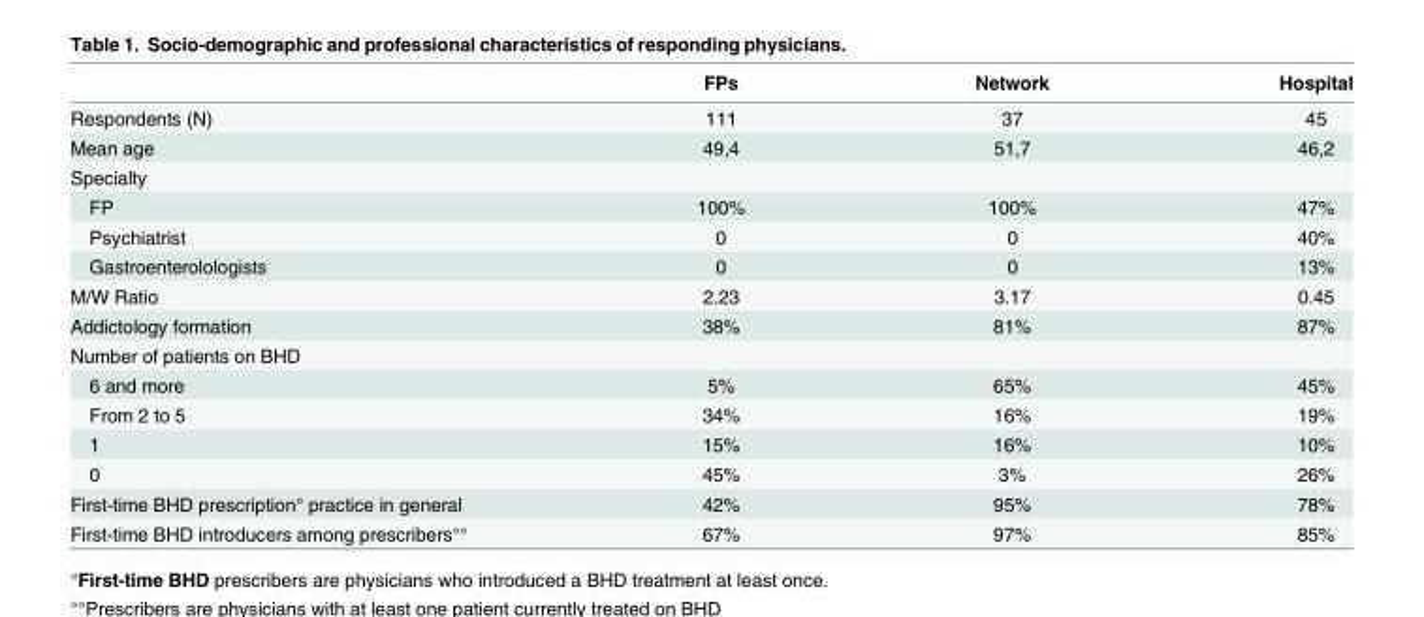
<table><thead><tr><td></td><td>FPs</td><td>Network</td><td>Hospital</td></tr></thead><tbody><tr><td>Respondents (N)</td><td>111</td><td>37</td><td>45</td></tr><tr><td>Mean age</td><td>49,4</td><td>51,7</td><td>46,2</td></tr><tr><td colspan="4">Specialty</td></tr><tr><td>FP</td><td>100%</td><td>100%</td><td>47%</td></tr><tr><td>Psychiatrist</td><td>0</td><td>0</td><td>40%</td></tr><tr><td>Gastroenterolologists</td><td>0</td><td>0</td><td>13%</td></tr><tr><td>M/W Ratio</td><td>2.23</td><td>3.17</td><td>0.45</td></tr><tr><td>Addictology formation</td><td>38%</td><td>81%</td><td>87%</td></tr><tr><td colspan="4">Number of patients on BHD</td></tr><tr><td>6 and more</td><td>5%</td><td>65%</td><td>45%</td></tr><tr><td>From 2 to 5</td><td>34%</td><td>16%</td><td>19%</td></tr><tr><td>1</td><td>15%</td><td>16%</td><td>10%</td></tr><tr><td>0</td><td>45%</td><td>3%</td><td>26%</td></tr><tr><td>First-time BHD prescription° practice in general</td><td>42%</td><td>95%</td><td>78%</td></tr><tr><td>First-time BHD introducers among prescribers°°</td><td>67%</td><td>97%</td><td>85%</td></tr></tbody></table>